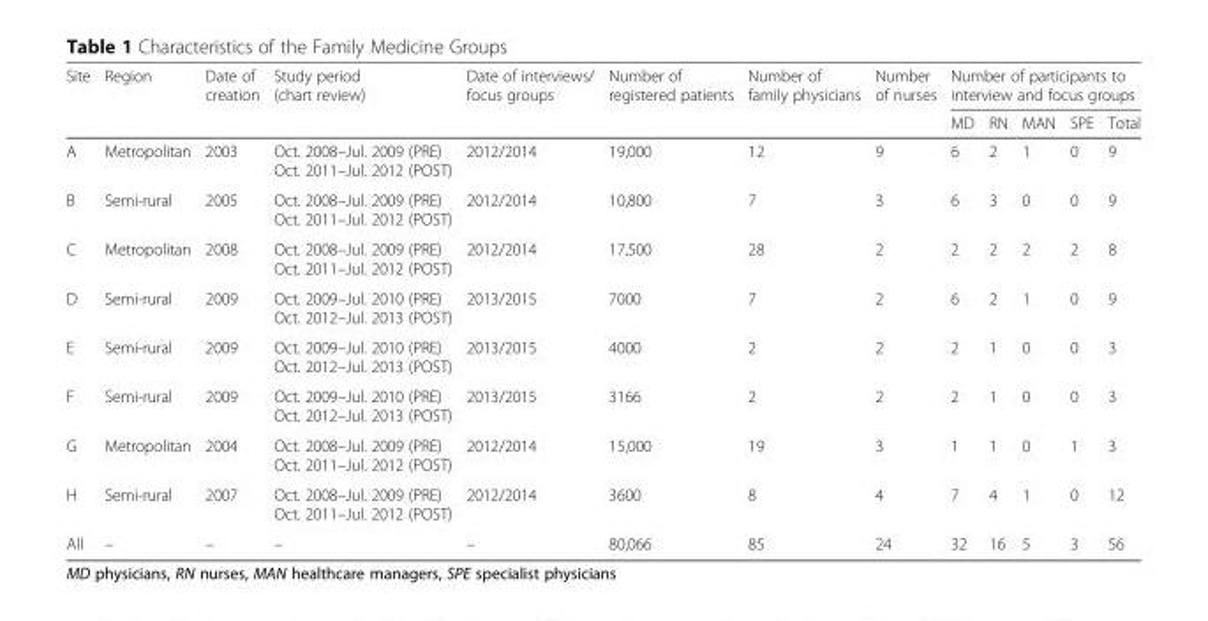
<table><thead><tr><td rowspan="2">Site</td><td rowspan="2">Region</td><td rowspan="2">Date of creation</td><td rowspan="2">Study period (chart review)</td><td rowspan="2">Date of interviews/ focus groups</td><td rowspan="2">Number of registered patients</td><td rowspan="2">Number of family physicians</td><td rowspan="2">Number of nurses</td><td colspan="5">Number of participants to interview and focus groups</td></tr><tr><td>MD</td><td>RN</td><td>MAN</td><td>SPE</td><td>Total</td></tr></thead><tbody><tr><td>A</td><td>Metropolitan</td><td>2003</td><td>Oct. 2008–Jul. 2009 (PRE) Oct. 2011–Jul. 2012 (POST)</td><td>2012/2014</td><td>19,000</td><td>12</td><td>9</td><td>6</td><td>2</td><td>1</td><td>0</td><td>9</td></tr><tr><td>B</td><td>Semi-rural</td><td>2005</td><td>Oct. 2008–Jul. 2009 (PRE) Oct. 2011–Jul. 2012 (POST)</td><td>2012/2014</td><td>10,800</td><td>7</td><td>3</td><td>6</td><td>3</td><td>0</td><td>0</td><td>9</td></tr><tr><td>C</td><td>Metropolitan</td><td>2008</td><td>Oct. 2008–Jul. 2009 (PRE) Oct. 2011–Jul. 2012 (POST)</td><td>2012/2014</td><td>17,500</td><td>28</td><td>2</td><td>2</td><td>2</td><td>2</td><td>2</td><td>8</td></tr><tr><td>D</td><td>Semi-rural</td><td>2009</td><td>Oct. 2009–Jul. 2010 (PRE) Oct. 2012–Jul. 2013 (POST)</td><td>2013/2015</td><td>7000</td><td>7</td><td>2</td><td>6</td><td>2</td><td>1</td><td>0</td><td>9</td></tr><tr><td>E</td><td>Semi-rural</td><td>2009</td><td>Oct. 2009–Jul. 2010 (PRE) Oct. 2012–Jul. 2013 (POST)</td><td>2013/2015</td><td>4000</td><td>2</td><td>2</td><td>2</td><td>1</td><td>0</td><td>0</td><td>3</td></tr><tr><td>F</td><td>Semi-rural</td><td>2009</td><td>Oct. 2009–Jul. 2010 (PRE) Oct. 2012–Jul. 2013 (POST)</td><td>2013/2015</td><td>3166</td><td>2</td><td>2</td><td>2</td><td>1</td><td>0</td><td>0</td><td>3</td></tr><tr><td>G</td><td>Metropolitan</td><td>2004</td><td>Oct. 2008–Jul. 2009 (PRE) Oct. 2011–Jul. 2012 (POST)</td><td>2012/2014</td><td>15,000</td><td>19</td><td>3</td><td>1</td><td>1</td><td>0</td><td>1</td><td>3</td></tr><tr><td>H</td><td>Semi-rural</td><td>2007</td><td>Oct. 2008–Jul. 2009 (PRE) Oct. 2011–Jul. 2012 (POST)</td><td>2012/2014</td><td>3600</td><td>8</td><td>4</td><td>7</td><td>4</td><td>1</td><td>0</td><td>12</td></tr><tr><td>All</td><td>–</td><td>–</td><td>–</td><td>–</td><td>80,066</td><td>85</td><td>24</td><td>32</td><td>16</td><td>5</td><td>3</td><td>56</td></tr></tbody></table>